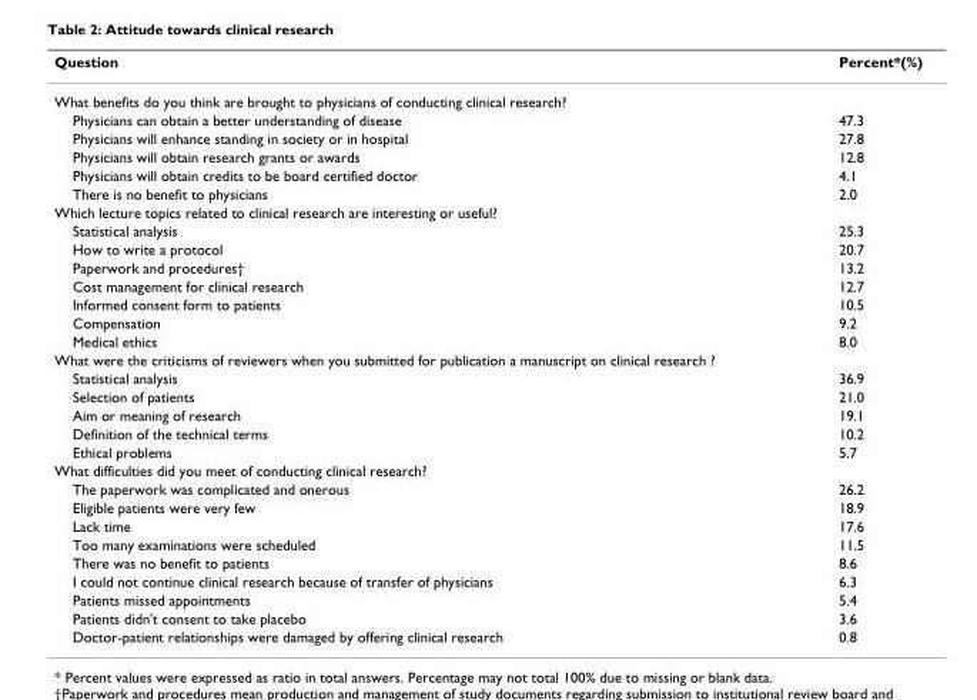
<table><thead><tr><td>Question</td><td>Percent*(%)</td></tr></thead><tbody><tr><td colspan="2">What benefits do you think are brought to physicians of conducting clinical research?</td></tr><tr><td>Physicians can obtain a better understanding of disease</td><td>47.3</td></tr><tr><td>Physicians will enhance standing in society or in hospital</td><td>27.8</td></tr><tr><td>Physicians will obtain research grants or awards</td><td>12.8</td></tr><tr><td>Physicians will obtain credits to be board certified doctor</td><td>4.1</td></tr><tr><td>There is no benefit to physicians</td><td>2.0</td></tr><tr><td colspan="2">Which lecture topics related to clinical research are interesting or useful?</td></tr><tr><td>Statistical analysis</td><td>25.3</td></tr><tr><td>How to write a protocol</td><td>20.7</td></tr><tr><td>Paperwork and procedures†</td><td>13.2</td></tr><tr><td>Cost management for clinical research</td><td>12.7</td></tr><tr><td>Informed consent form to patients</td><td>10.5</td></tr><tr><td>Compensation</td><td>9.2</td></tr><tr><td>Medical ethics</td><td>8.0</td></tr><tr><td colspan="2">What were the criticisms of reviewers when you submitted for publication a manuscript on clinical research ?</td></tr><tr><td>Statistical analysis</td><td>36.9</td></tr><tr><td>Selection of patients</td><td>21.0</td></tr><tr><td>Aim or meaning of research</td><td>19.1</td></tr><tr><td>Definition of the technical terms</td><td>10.2</td></tr><tr><td>Ethical problems</td><td>5.7</td></tr><tr><td colspan="2">What difficulties did you meet of conducting clinical research?</td></tr><tr><td>The paperwork was complicated and onerous</td><td>26.2</td></tr><tr><td>Eligible patients were very few</td><td>18.9</td></tr><tr><td>Lack time</td><td>17.6</td></tr><tr><td>Too many examinations were scheduled</td><td>11.5</td></tr><tr><td>There was no benefit to patients</td><td>8.6</td></tr><tr><td>I could not continue clinical research because of transfer of physicians</td><td>6.3</td></tr><tr><td>Patients missed appointments</td><td>5.4</td></tr><tr><td>Patients didn&#x27;t consent to take placebo</td><td>3.6</td></tr><tr><td>Doctor-patient relationships were damaged by offering clinical research</td><td>0.8</td></tr></tbody></table>